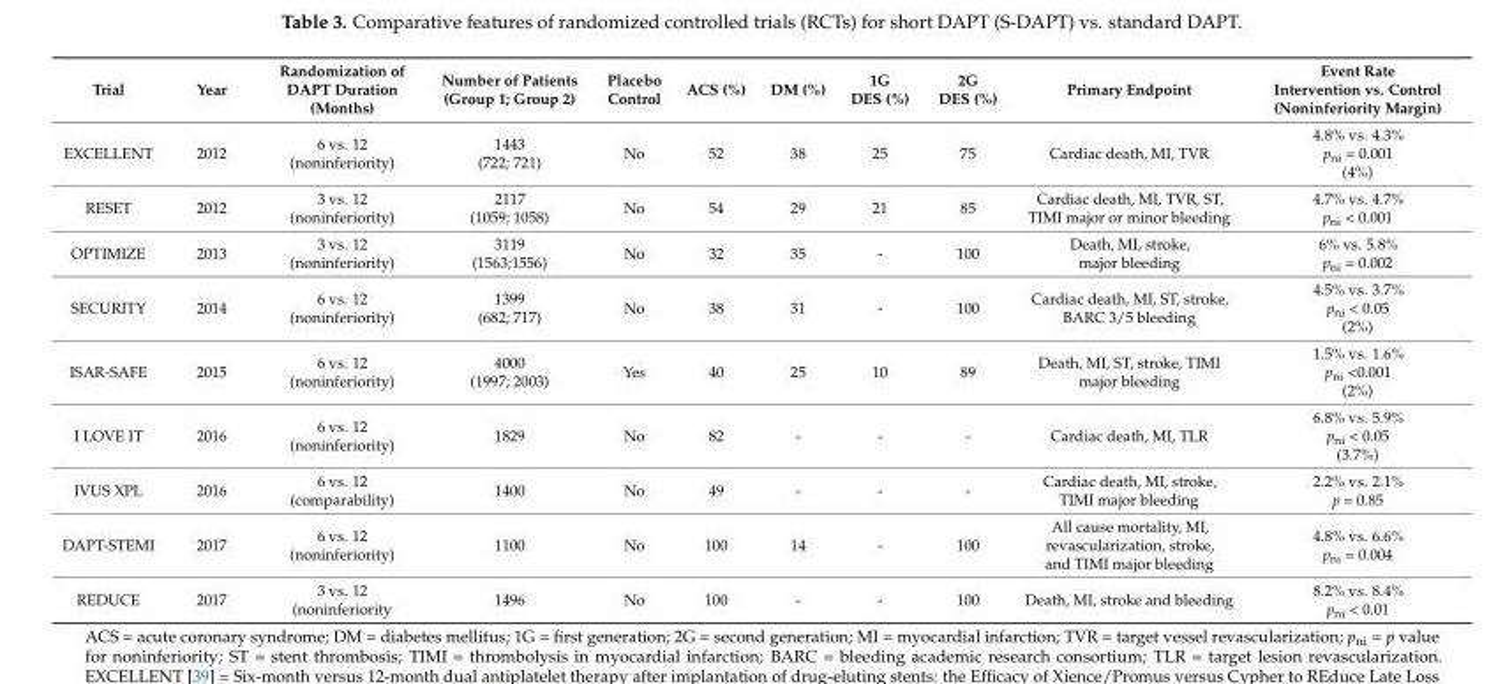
<table><thead><tr><td>Trial</td><td>Year</td><td>Randomization of DAPT Duration (Months)</td><td>Number of Patients (Group 1; Group 2)</td><td>Placebo Control</td><td>ACS (%)</td><td>DM (%)</td><td>1G DES (%)</td><td>2G DES (%)</td><td>Primary Endpoint</td><td>Event Rate Intervention vs. Control (Noninferiority Margin)</td></tr></thead><tbody><tr><td>EXCELLENT</td><td>2012</td><td>6 vs. 12 (noninferiority)</td><td>1443 (722; 721)</td><td>No</td><td>52</td><td>38</td><td>25</td><td>75</td><td>Cardiac death, MI, TVR</td><td>4.8% vs. 4.3% p<sub>ni</sub> = 0.001 (4%)</td></tr><tr><td>RESET</td><td>2012</td><td>3 vs. 12 (noninferiority)</td><td>2117 (1059; 1058)</td><td>No</td><td>54</td><td>29</td><td>21</td><td>85</td><td>Cardiac death, MI, TVR, ST, TIMI major or minor bleeding</td><td>4.7% vs. 4.7% p<sub>ni</sub> &lt; 0.001</td></tr><tr><td>OPTIMIZE</td><td>2013</td><td>3 vs. 12 (noninferiority)</td><td>3119 (1563;1556)</td><td>No</td><td>32</td><td>35</td><td>-</td><td>100</td><td>Death, MI, stroke, major bleeding</td><td>6% vs. 5.8% p<sub>ni</sub> = 0.002</td></tr><tr><td>SECURITY</td><td>2014</td><td>6 vs. 12 (noninferiority)</td><td>1399 (682; 717)</td><td>No</td><td>38</td><td>31</td><td>-</td><td>100</td><td>Cardiac death, MI, ST, stroke, BARC 3/5 bleeding</td><td>4.5% vs. 3.7% p<sub>ni</sub> &lt; 0.05 (2%)</td></tr><tr><td>ISAR-SAFE</td><td>2015</td><td>6 vs. 12 (noninferiority)</td><td>4000 (1997; 2003)</td><td>Yes</td><td>40</td><td>25</td><td>10</td><td>89</td><td>Death, MI, ST, stroke, TIMI major bleeding</td><td>1.5% vs. 1.6% p<sub>ni</sub> &lt;0.001 (2%)</td></tr><tr><td>I LOVE IT</td><td>2016</td><td>6 vs. 12 (noninferiority)</td><td>1829</td><td>No</td><td>82</td><td>-</td><td>-</td><td>-</td><td>Cardiac death, MI, TLR</td><td>6.8% vs. 5.9% p<sub>ni</sub> &lt; 0.05 (3.7%)</td></tr><tr><td>IVUS XPL</td><td>2016</td><td>6 vs. 12 (comparability)</td><td>1400</td><td>No</td><td>49</td><td>-</td><td>-</td><td>-</td><td>Cardiac death, MI, stroke, TIMI major bleeding</td><td>2.2% vs. 2.1% p = 0.85</td></tr><tr><td>DAPT-STEMI</td><td>2017</td><td>6 vs. 12 (noninferiority)</td><td>1100</td><td>No</td><td>100</td><td>14</td><td>-</td><td>100</td><td>All cause mortality, MI, revascularization, stroke, and TIMI major bleeding</td><td>4.8% vs. 6.6% p<sub>ni</sub> = 0.004</td></tr><tr><td>REDUCE</td><td>2017</td><td>3 vs. 12 (noninferiority</td><td>1496</td><td>No</td><td>100</td><td>-</td><td>-</td><td>100</td><td>Death, MI, stroke and bleeding</td><td>8.2% vs. 8.4% p<sub>ni</sub> &lt; 0.01</td></tr></tbody></table>